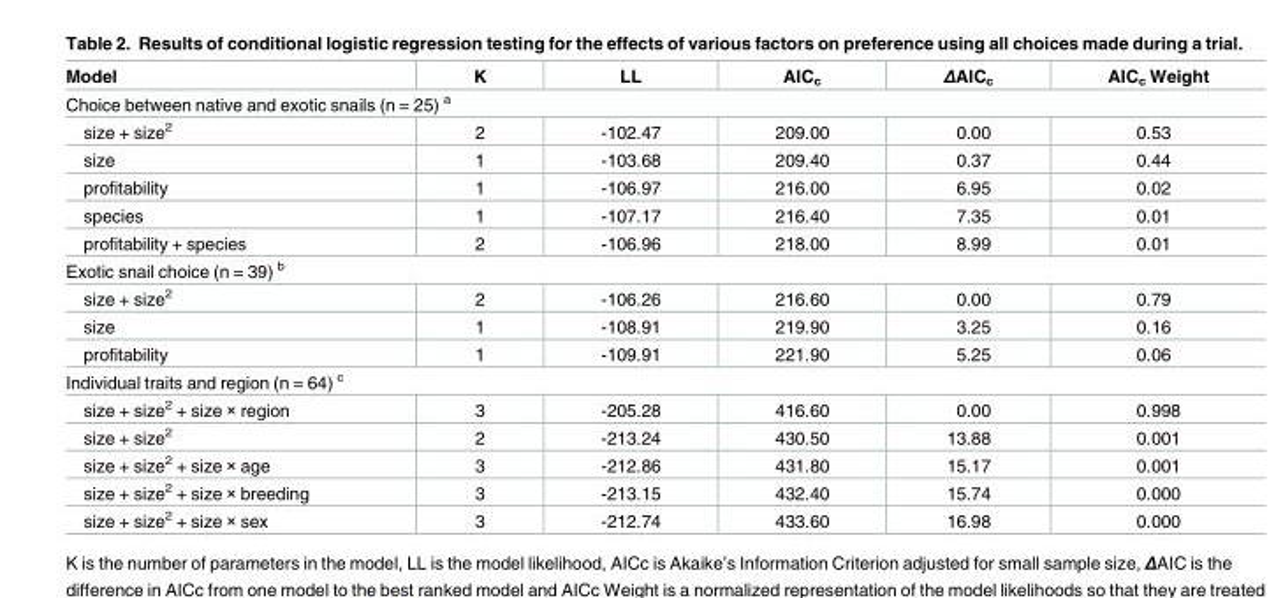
<table><thead><tr><td>Model</td><td>K</td><td>LL</td><td>AIC<sub>c</sub></td><td>ΔAIC<sub>c</sub></td><td>AIC<sub>c</sub> Weight</td></tr></thead><tbody><tr><td colspan="6">Choice between native and exotic snails (n = 25) <sup>a</sup></td></tr><tr><td>size + size<sup>2</sup></td><td>2</td><td>-102.47</td><td>209.00</td><td>0.00</td><td>0.53</td></tr><tr><td>size</td><td>1</td><td>-103.68</td><td>209.40</td><td>0.37</td><td>0.44</td></tr><tr><td>profitability</td><td>1</td><td>-106.97</td><td>216.00</td><td>6.95</td><td>0.02</td></tr><tr><td>species</td><td>1</td><td>-107.17</td><td>216.40</td><td>7.35</td><td>0.01</td></tr><tr><td>profitability + species</td><td>2</td><td>-106.96</td><td>218.00</td><td>8.99</td><td>0.01</td></tr><tr><td colspan="6">Exotic snail choice (n = 39) <sup>b</sup></td></tr><tr><td>size + size<sup>2</sup></td><td>2</td><td>-106.26</td><td>216.60</td><td>0.00</td><td>0.79</td></tr><tr><td>size</td><td>1</td><td>-108.91</td><td>219.90</td><td>3.25</td><td>0.16</td></tr><tr><td>profitability</td><td>1</td><td>-109.91</td><td>221.90</td><td>5.25</td><td>0.06</td></tr><tr><td colspan="6">Individual traits and region (n = 64) <sup>c</sup></td></tr><tr><td>size + size<sup>2</sup> + size × region</td><td>3</td><td>-205.28</td><td>416.60</td><td>0.00</td><td>0.998</td></tr><tr><td>size + size<sup>2</sup></td><td>2</td><td>-213.24</td><td>430.50</td><td>13.88</td><td>0.001</td></tr><tr><td>size + size<sup>2</sup> + size × age</td><td>3</td><td>-212.86</td><td>431.80</td><td>15.17</td><td>0.001</td></tr><tr><td>size + size<sup>2</sup> + size × breeding</td><td>3</td><td>-213.15</td><td>432.40</td><td>15.74</td><td>0.000</td></tr><tr><td>size + size<sup>2</sup> + size × sex</td><td>3</td><td>-212.74</td><td>433.60</td><td>16.98</td><td>0.000</td></tr></tbody></table>